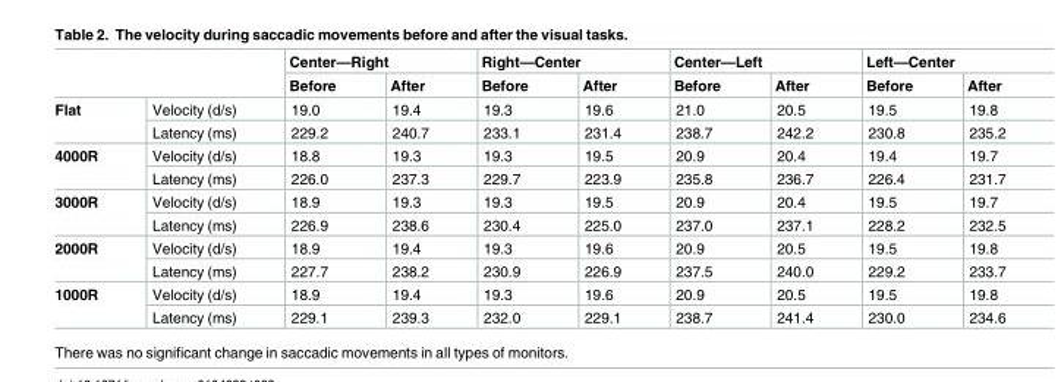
<table><thead><tr><td rowspan="2"></td><td rowspan="2"></td><td colspan="2">Center—Right</td><td colspan="2">Right—Center</td><td colspan="2">Center—Left</td><td colspan="2">Left—Center</td></tr><tr><td>Before</td><td>After</td><td>Before</td><td>After</td><td>Before</td><td>After</td><td>Before</td><td>After</td></tr></thead><tbody><tr><td rowspan="2">Flat</td><td>Velocity (d/s)</td><td>19.0</td><td>19.4</td><td>19.3</td><td>19.6</td><td>21.0</td><td>20.5</td><td>19.5</td><td>19.8</td></tr><tr><td>Latency (ms)</td><td>229.2</td><td>240.7</td><td>233.1</td><td>231.4</td><td>238.7</td><td>242.2</td><td>230.8</td><td>235.2</td></tr><tr><td rowspan="2">4000R</td><td>Velocity (d/s)</td><td>18.8</td><td>19.3</td><td>19.3</td><td>19.5</td><td>20.9</td><td>20.4</td><td>19.4</td><td>19.7</td></tr><tr><td>Latency (ms)</td><td>226.0</td><td>237.3</td><td>229.7</td><td>223.9</td><td>235.8</td><td>236.7</td><td>226.4</td><td>231.7</td></tr><tr><td rowspan="2">3000R</td><td>Velocity (d/s)</td><td>18.9</td><td>19.3</td><td>19.3</td><td>19.5</td><td>20.9</td><td>20.4</td><td>19.5</td><td>19.7</td></tr><tr><td>Latency (ms)</td><td>226.9</td><td>238.6</td><td>230.4</td><td>225.0</td><td>237.0</td><td>237.1</td><td>228.2</td><td>232.5</td></tr><tr><td rowspan="2">2000R</td><td>Velocity (d/s)</td><td>18.9</td><td>19.4</td><td>19.3</td><td>19.6</td><td>20.9</td><td>20.5</td><td>19.5</td><td>19.8</td></tr><tr><td>Latency (ms)</td><td>227.7</td><td>238.2</td><td>230.9</td><td>226.9</td><td>237.5</td><td>240.0</td><td>229.2</td><td>233.7</td></tr><tr><td rowspan="2">1000R</td><td>Velocity (d/s)</td><td>18.9</td><td>19.4</td><td>19.3</td><td>19.6</td><td>20.9</td><td>20.5</td><td>19.5</td><td>19.8</td></tr><tr><td>Latency (ms)</td><td>229.1</td><td>239.3</td><td>232.0</td><td>229.1</td><td>238.7</td><td>241.4</td><td>230.0</td><td>234.6</td></tr></tbody></table>